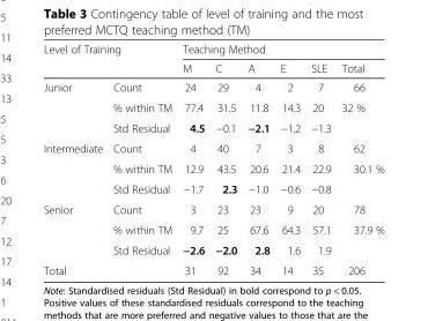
<table><thead><tr><td rowspan="2" colspan="2">Level of Training</td><td colspan="6">Teaching Method</td></tr><tr><td rowspan="2">M 24</td><td rowspan="2">C 29</td><td rowspan="2">A 4</td><td rowspan="2">E 2</td><td rowspan="2">SLE 7</td><td rowspan="2">Total 66</td></tr><tr><td>Junior</td><td>Count</td></tr></thead><tbody><tr><td></td><td>% within TM</td><td>77.4</td><td>31.5</td><td>11.8</td><td>14.3</td><td>20</td><td>32 %</td></tr><tr><td></td><td>Std Residual</td><td>4.5</td><td>−0.1</td><td>−2.1</td><td>−1.2</td><td>−1.3</td><td></td></tr><tr><td rowspan="3">Intermediate</td><td>Count</td><td>4</td><td>40</td><td>7</td><td>3</td><td>8</td><td>62</td></tr><tr><td>% within TM</td><td>12.9</td><td>43.5</td><td>20.6</td><td>21.4</td><td>22.9</td><td>30.1 %</td></tr><tr><td>Std Residual</td><td>−1.7</td><td>2.3</td><td>−1.0</td><td>−0.6</td><td>−0.8</td><td></td></tr><tr><td rowspan="3">Senior</td><td>Count</td><td>3</td><td>23</td><td>23</td><td>9</td><td>20</td><td>78</td></tr><tr><td>% within TM</td><td>9.7</td><td>25</td><td>67.6</td><td>64.3</td><td>57.1</td><td>37.9 %</td></tr><tr><td>Std Residual</td><td>−2.6</td><td>−2.0</td><td>2.8</td><td>1.6</td><td>1.9</td><td></td></tr><tr><td>Total</td><td></td><td>31</td><td>92</td><td>34</td><td>14</td><td>35</td><td>206</td></tr></tbody></table>